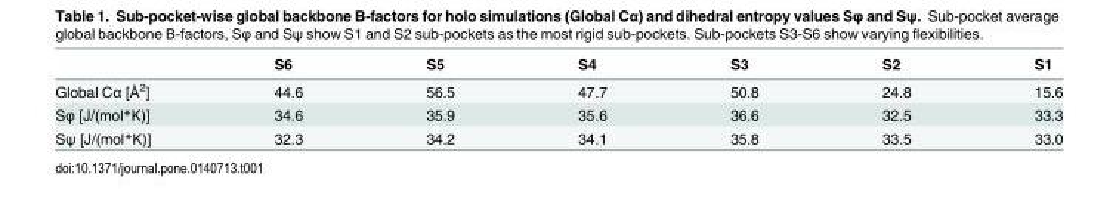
<table><thead><tr><td></td><td>S6</td><td>S5</td><td>S4</td><td>S3</td><td>S2</td><td>S1</td></tr></thead><tbody><tr><td>Global Cα [Å<sup>2</sup>]</td><td>44.6</td><td>56.5</td><td>47.7</td><td>50.8</td><td>24.8</td><td>15.6</td></tr><tr><td>Sφ [J/(mol*K)]</td><td>34.6</td><td>35.9</td><td>35.6</td><td>36.6</td><td>32.5</td><td>33.3</td></tr><tr><td>Sψ [J/(mol*K)]</td><td>32.3</td><td>34.2</td><td>34.1</td><td>35.8</td><td>33.5</td><td>33.0</td></tr></tbody></table>